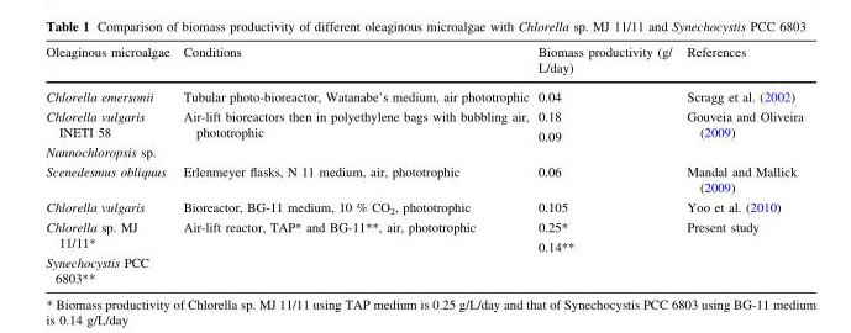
<table><thead><tr><td>Oleaginous microalgae</td><td>Conditions</td><td>Biomass productivity (g/ L/day)</td><td>References</td></tr></thead><tbody><tr><td>Chlorella emersonii</td><td>Tubular photo-bioreactor, Watanabe’s medium, air phototrophic</td><td>0.04</td><td>Scragg et al. (2002)</td></tr><tr><td>Chlorella vulgaris INETI 58 Nannochloropsis sp.</td><td>Air-lift bioreactors then in polyethylene bags with bubbling air, phototrophic</td><td>0.18 0.09</td><td>Gouveia and Oliveira (2009)</td></tr><tr><td>Scenedesmus obliquus</td><td>Erlenmeyer flasks, N 11 medium, air, phototrophic</td><td>0.06</td><td>Mandal and Mallick (2009)</td></tr><tr><td>Chlorella vulgaris</td><td>Bioreactor, BG-11 medium, 10 % CO<sub>2</sub>, phototrophic</td><td>0.105</td><td>Yoo et al. (2010)</td></tr><tr><td>Chlorella sp. MJ 11/11* Synechocystis PCC 6803**</td><td>Air-lift reactor, TAP* and BG-11**, air, phototrophic</td><td>0.25* 0.14**</td><td>Present study</td></tr></tbody></table>